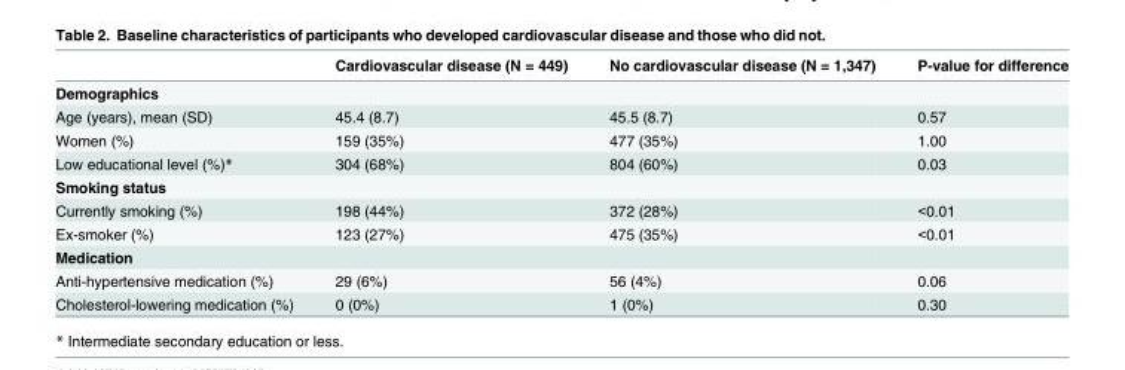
<table><thead><tr><td></td><td>Cardiovascular disease (N = 449)</td><td>No cardiovascular disease (N = 1,347)</td><td>P-value for difference</td></tr></thead><tbody><tr><td colspan="4">Demographics</td></tr><tr><td>Age (years), mean (SD)</td><td>45.4 (8.7)</td><td>45.5 (8.7)</td><td>0.57</td></tr><tr><td>Women (%)</td><td>159 (35%)</td><td>477 (35%)</td><td>1.00</td></tr><tr><td>Low educational level (%)*</td><td>304 (68%)</td><td>804 (60%)</td><td>0.03</td></tr><tr><td colspan="4">Smoking status</td></tr><tr><td>Currently smoking (%)</td><td>198 (44%)</td><td>372 (28%)</td><td>&lt;0.01</td></tr><tr><td>Ex-smoker (%)</td><td>123 (27%)</td><td>475 (35%)</td><td>&lt;0.01</td></tr><tr><td colspan="4">Medication</td></tr><tr><td>Anti-hypertensive medication (%)</td><td>29 (6%)</td><td>56 (4%)</td><td>0.06</td></tr><tr><td>Cholesterol-lowering medication (%)</td><td>0 (0%)</td><td>1 (0%)</td><td>0.30</td></tr></tbody></table>